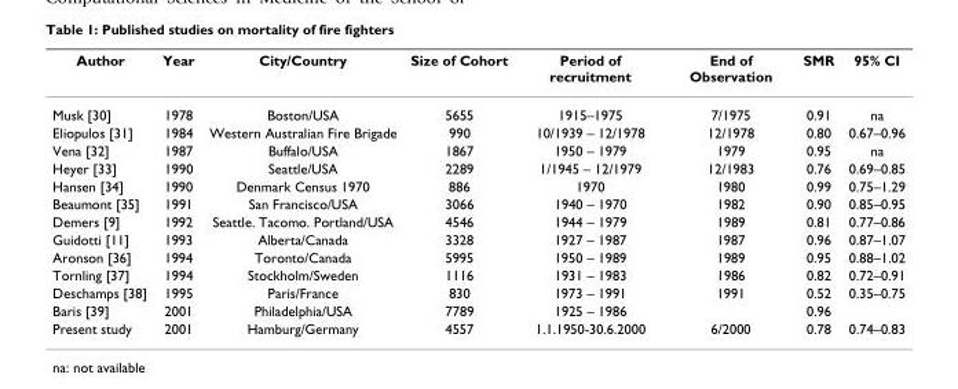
<table><thead><tr><td>Author</td><td>Year</td><td>City/Country</td><td>Size of Cohort</td><td>Period of recruitment</td><td>End of Observation</td><td>SMR</td><td>95% CI</td></tr></thead><tbody><tr><td>Musk [30]</td><td>1978</td><td>Boston/USA</td><td>5655</td><td>1915–1975</td><td>7/1975</td><td>0.91</td><td>na</td></tr><tr><td>Eliopulos [31]</td><td>1984</td><td>Western Australian Fire Brigade</td><td>990</td><td>10/1939 – 12/1978</td><td>12/1978</td><td>0.80</td><td>0.67–0.96</td></tr><tr><td>Vena [32]</td><td>1987</td><td>Buffalo/USA</td><td>1867</td><td>1950 – 1979</td><td>1979</td><td>0.95</td><td>na</td></tr><tr><td>Heyer [33]</td><td>1990</td><td>Seattle/USA</td><td>2289</td><td>1/1945 – 12/1979</td><td>12/1983</td><td>0.76</td><td>0.69–0.85</td></tr><tr><td>Hansen [34]</td><td>1990</td><td>Denmark Census 1970</td><td>886</td><td>1970</td><td>1980</td><td>0.99</td><td>0.75–1.29</td></tr><tr><td>Beaumont [35]</td><td>1991</td><td>San Francisco/USA</td><td>3066</td><td>1940 – 1970</td><td>1982</td><td>0.90</td><td>0.85–0.95</td></tr><tr><td>Demers [9]</td><td>1992</td><td>Seattle. Tacomo. Portland/USA</td><td>4546</td><td>1944 – 1979</td><td>1989</td><td>0.81</td><td>0.77–0.86</td></tr><tr><td>Guidotti [11]</td><td>1993</td><td>Alberta/Canada</td><td>3328</td><td>1927 – 1987</td><td>1987</td><td>0.96</td><td>0.87–1.07</td></tr><tr><td>Aronson [36]</td><td>1994</td><td>Toronto/Canada</td><td>5995</td><td>1950 – 1989</td><td>1989</td><td>0.95</td><td>0.88–1.02</td></tr><tr><td>Tornling [37]</td><td>1994</td><td>Stockholm/Sweden</td><td>1116</td><td>1931 – 1983</td><td>1986</td><td>0.82</td><td>0.72–0.91</td></tr><tr><td>Deschamps [38]</td><td>1995</td><td>Paris/France</td><td>830</td><td>1973 – 1991</td><td>1991</td><td>0.52</td><td>0.35–0.75</td></tr><tr><td>Baris [39]</td><td>2001</td><td>Philadelphia/USA</td><td>7789</td><td>1925 – 1986</td><td></td><td>0.96</td><td></td></tr><tr><td>Present study</td><td>2001</td><td>Hamburg/Germany</td><td>4557</td><td>1.1.1950-30.6.2000</td><td>6/2000</td><td>0.78</td><td>0.74–0.83</td></tr></tbody></table>